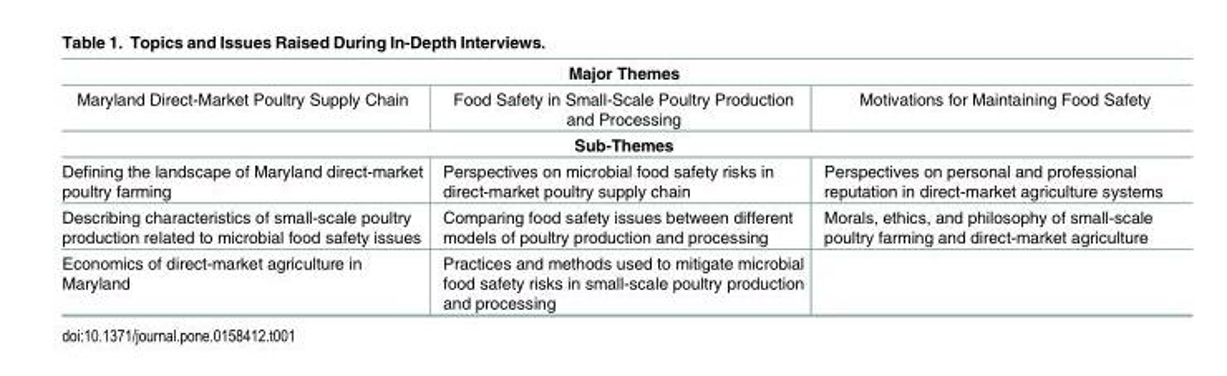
<table><tbody><tr><td colspan="3">Major Themes</td></tr><tr><td>Maryland Direct-Market Poultry Supply Chain</td><td>Food Safety in Small-Scale Poultry Production and Processing</td><td>Motivations for Maintaining Food Safety</td></tr><tr><td colspan="3">Sub-Themes</td></tr><tr><td>Defining the landscape of Maryland direct-market poultry farming</td><td>Perspectives on microbial food safety risks in direct-market poultry supply chain</td><td>Perspectives on personal and professional reputation in direct-market agriculture systems</td></tr><tr><td>Describing characteristics of small-scale poultry production related to microbial food safety issues</td><td>Comparing food safety issues between different models of poultry production and processing</td><td>Morals, ethics, and philosophy of small-scale poultry farming and direct-market agriculture</td></tr><tr><td>Economics of direct-market agriculture in Maryland</td><td>Practices and methods used to mitigate microbial food safety risks in small-scale poultry production and processing</td><td></td></tr></tbody></table>